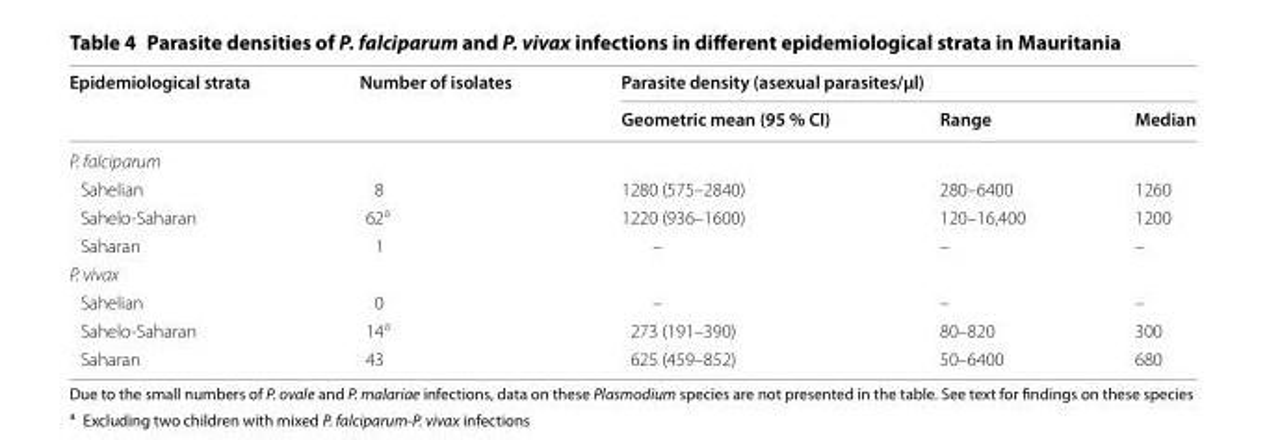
<table><thead><tr><td rowspan="2">Epidemiological strata</td><td rowspan="2">Number of isolates</td><td colspan="3">Parasite density (asexual parasites/µl)</td></tr><tr><td>Geometric mean (95 % CI)</td><td>Range</td><td>Median</td></tr></thead><tbody><tr><td colspan="5">P. falciparum</td></tr><tr><td>Sahelian</td><td>8</td><td>1280 (575–2840)</td><td>280–6400</td><td>1260</td></tr><tr><td>Sahelo-Saharan</td><td>62<sup>a</sup></td><td>1220 (936–1600)</td><td>120–16,400</td><td>1200</td></tr><tr><td>Saharan</td><td>1</td><td>–</td><td>–</td><td>–</td></tr><tr><td colspan="5">P. vivax</td></tr><tr><td>Sahelian</td><td>0</td><td>–</td><td>–</td><td>–</td></tr><tr><td>Sahelo-Saharan</td><td>14<sup>a</sup></td><td>273 (191–390)</td><td>80–820</td><td>300</td></tr><tr><td>Saharan</td><td>43</td><td>625 (459–852)</td><td>50–6400</td><td>680</td></tr></tbody></table>